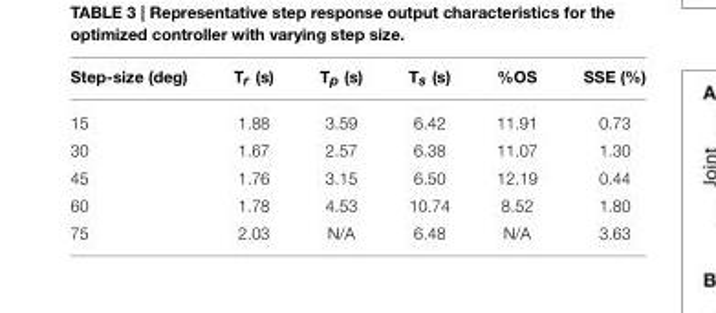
<table><thead><tr><td>Step-size (deg)</td><td>T<sub>r</sub> (s)</td><td>T<sub>p</sub> (s)</td><td>T<sub>s</sub> (s)</td><td>%OS</td><td>SSE (%)</td></tr></thead><tbody><tr><td>15</td><td>1.88</td><td>3.59</td><td>6.42</td><td>11.91</td><td>0.73</td></tr><tr><td>30</td><td>1.67</td><td>2.57</td><td>6.38</td><td>11.07</td><td>1.30</td></tr><tr><td>45</td><td>1.76</td><td>3.15</td><td>6.50</td><td>12.19</td><td>0.44</td></tr><tr><td>60</td><td>1.78</td><td>4.53</td><td>10.74</td><td>8.52</td><td>1.80</td></tr><tr><td>75</td><td>2.03</td><td>N/A</td><td>6.48</td><td>N/A</td><td>3.63</td></tr></tbody></table>